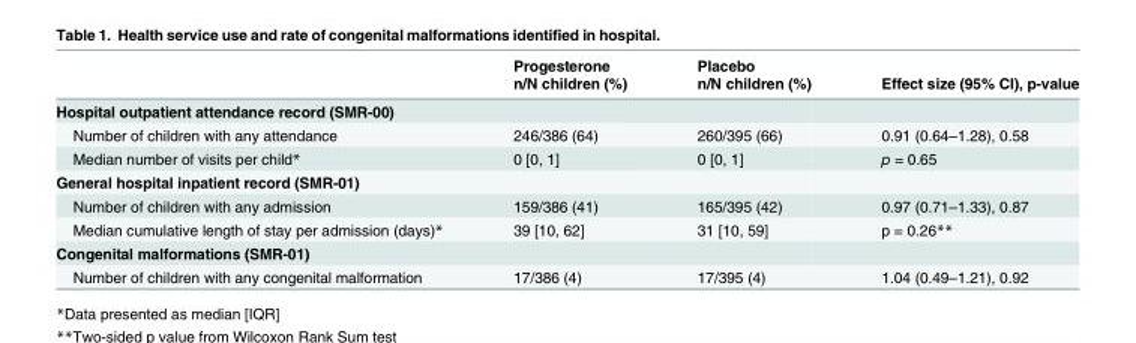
<table><thead><tr><td rowspan="2"></td><td rowspan="2">Progesterone n/N children (%)</td><td rowspan="2">Placebo n/N children (%)</td><td rowspan="2">Effect size (95% CI), p-value</td></tr><tr></tr></thead><tbody><tr><td colspan="4">Hospital outpatient attendance record (SMR-00)</td></tr><tr><td>Number of children with any attendance</td><td>246/386 (64)</td><td>260/395 (66)</td><td>0.91 (0.64–1.28), 0.58</td></tr><tr><td>Median number of visits per child*</td><td>0 [0, 1]</td><td>0 [0, 1]</td><td>p = 0.65</td></tr><tr><td colspan="4">General hospital inpatient record (SMR-01)</td></tr><tr><td>Number of children with any admission</td><td>159/386 (41)</td><td>165/395 (42)</td><td>0.97 (0.71–1.33), 0.87</td></tr><tr><td>Median cumulative length of stay per admission (days)*</td><td>39 [10, 62]</td><td>31 [10, 59]</td><td>p = 0.26**</td></tr><tr><td colspan="4">Congenital malformations (SMR-01)</td></tr><tr><td>Number of children with any congenital malformation</td><td>17/386 (4)</td><td>17/395 (4)</td><td>1.04 (0.49–1.21), 0.92</td></tr></tbody></table>